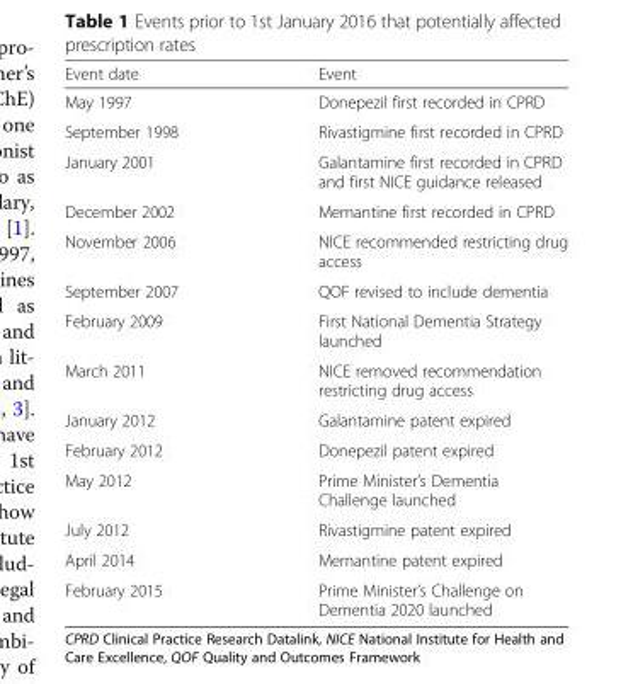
<table><thead><tr><td>Event date</td><td>Event</td></tr></thead><tbody><tr><td>May 1997</td><td>Donepezil first recorded in CPRD</td></tr><tr><td>September 1998</td><td>Rivastigmine first recorded in CPRD</td></tr><tr><td>January 2001</td><td>Galantamine first recorded in CPRD and first NICE guidance released</td></tr><tr><td>December 2002</td><td>Memantine first recorded in CPRD</td></tr><tr><td>November 2006</td><td>NICE recommended restricting drug access</td></tr><tr><td>September 2007</td><td>QOF revised to include dementia</td></tr><tr><td>February 2009</td><td>First National Dementia Strategy launched</td></tr><tr><td>March 2011</td><td>NICE removed recommendation restricting drug access</td></tr><tr><td>January 2012</td><td>Galantamine patent expired</td></tr><tr><td>February 2012</td><td>Donepezil patent expired</td></tr><tr><td>May 2012</td><td>Prime Minister’s Dementia Challenge launched</td></tr><tr><td>July 2012</td><td>Rivastigmine patent expired</td></tr><tr><td>April 2014</td><td>Memantine patent expired</td></tr><tr><td>February 2015</td><td>Prime Minister’s Challenge on Dementia 2020 launched</td></tr></tbody></table>